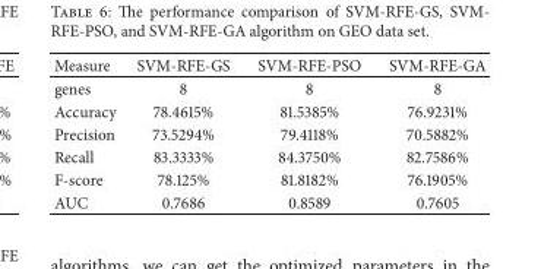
<table><thead><tr><td>Measure</td><td>SVM-RFE-GS</td><td>SVM-RFE-PSO</td><td>SVM-RFE-GA</td></tr></thead><tbody><tr><td>genes</td><td>8</td><td>8</td><td>8</td></tr><tr><td>Accuracy</td><td>78.4615%</td><td>81.5385%</td><td>76.9231%</td></tr><tr><td>Precision</td><td>73.5294%</td><td>79.4118%</td><td>70.5882%</td></tr><tr><td>Recall</td><td>83.3333%</td><td>84.3750%</td><td>82.7586%</td></tr><tr><td>F-score</td><td>78.125%</td><td>81.8182%</td><td>76.1905%</td></tr><tr><td>AUC</td><td>0.7686</td><td>0.8589</td><td>0.7605</td></tr></tbody></table>